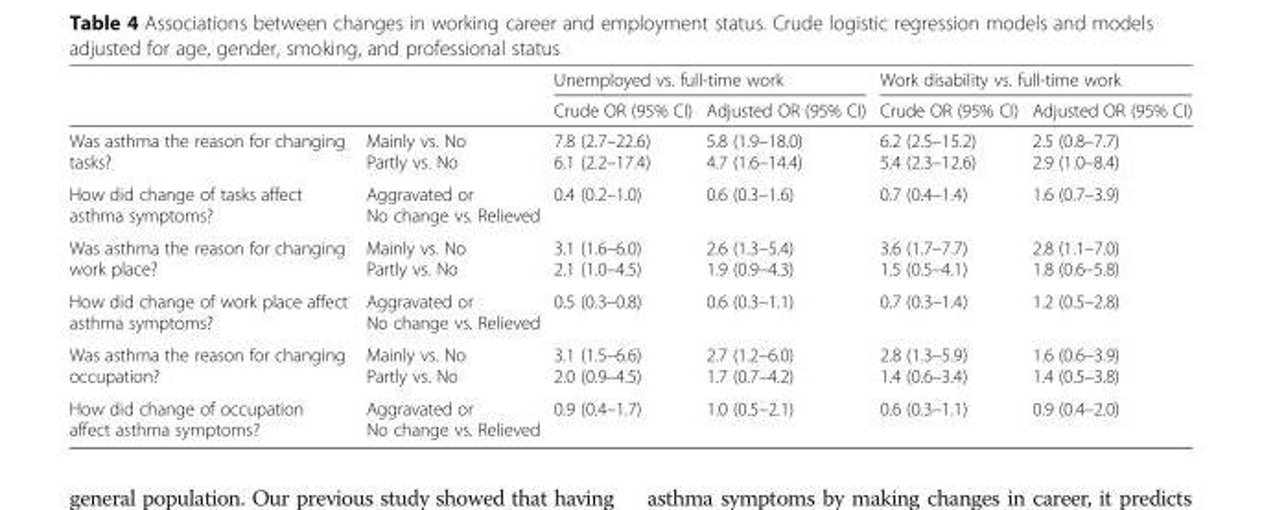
<table><thead><tr><td rowspan="2"></td><td rowspan="2"></td><td colspan="2">Unemployed vs. full-time work</td><td colspan="2">Work disability vs. full-time work</td></tr><tr><td>Crude OR (95% CI)</td><td>Adjusted OR (95% CI)</td><td>Crude OR (95% CI)</td><td>Adjusted OR (95% CI)</td></tr></thead><tbody><tr><td>Was asthma the reason for changing tasks?</td><td>Mainly vs. No Partly vs. No</td><td>7.8 (2.7–22.6) 6.1 (2.2–17.4)</td><td>5.8 (1.9–18.0) 4.7 (1.6–14.4)</td><td>6.2 (2.5–15.2) 5.4 (2.3–12.6)</td><td>2.5 (0.8–7.7) 2.9 (1.0–8.4)</td></tr><tr><td>How did change of tasks affect asthma symptoms?</td><td>Aggravated or No change vs. Relieved</td><td>0.4 (0.2–1.0)</td><td>0.6 (0.3–1.6)</td><td>0.7 (0.4–1.4)</td><td>1.6 (0.7–3.9)</td></tr><tr><td>Was asthma the reason for changing work place?</td><td>Mainly vs. No Partly vs. No</td><td>3.1 (1.6–6.0) 2.1 (1.0–4.5)</td><td>2.6 (1.3–5.4) 1.9 (0.9–4.3)</td><td>3.6 (1.7–7.7) 1.5 (0.5–4.1)</td><td>2.8 (1.1–7.0) 1.8 (0.6–5.8)</td></tr><tr><td>How did change of work place affect asthma symptoms?</td><td>Aggravated or No change vs. Relieved</td><td>0.5 (0.3–0.8)</td><td>0.6 (0.3–1.1)</td><td>0.7 (0.3–1.4)</td><td>1.2 (0.5–2.8)</td></tr><tr><td>Was asthma the reason for changing occupation?</td><td>Mainly vs. No Partly vs. No</td><td>3.1 (1.5–6.6) 2.0 (0.9–4.5)</td><td>2.7 (1.2–6.0) 1.7 (0.7–4.2)</td><td>2.8 (1.3–5.9) 1.4 (0.6–3.4)</td><td>1.6 (0.6–3.9) 1.4 (0.5–3.8)</td></tr><tr><td>How did change of occupation affect asthma symptoms?</td><td>Aggravated or No change vs. Relieved</td><td>0.9 (0.4–1.7)</td><td>1.0 (0.5–2.1)</td><td>0.6 (0.3–1.1)</td><td>0.9 (0.4–2.0)</td></tr></tbody></table>